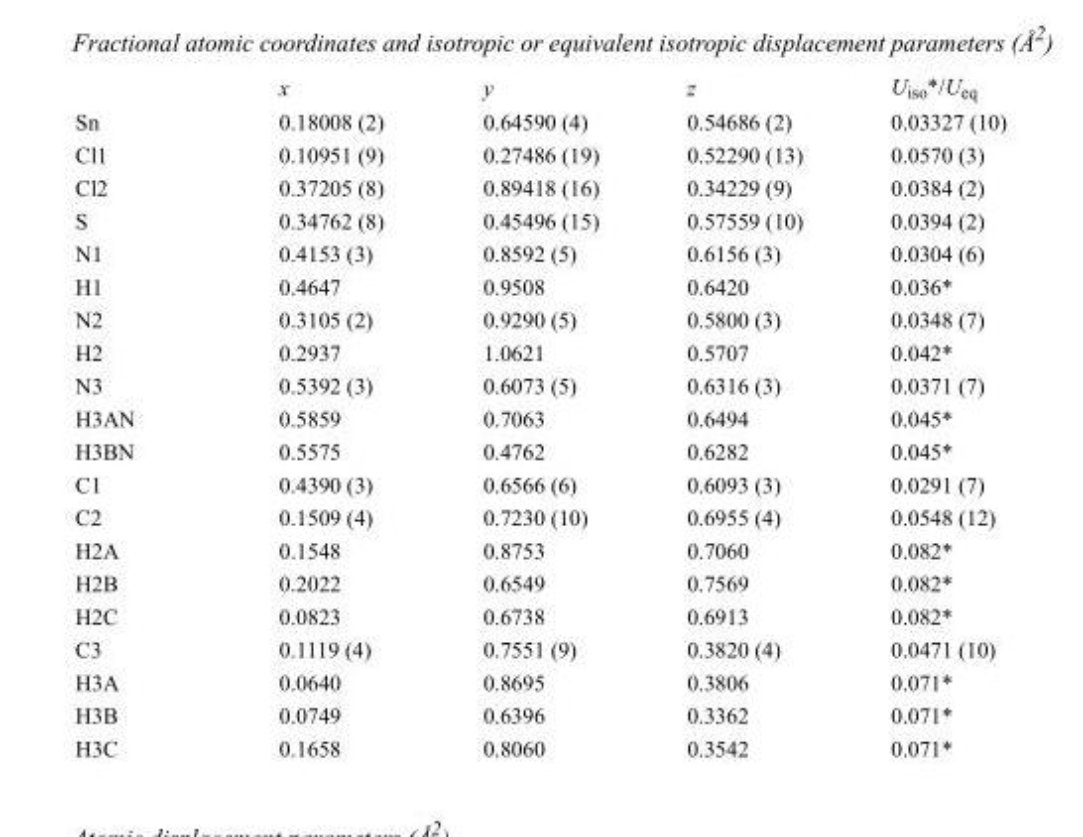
<table><thead><tr><td></td><td>x</td><td>y</td><td>z</td><td>U<sub>iso</sub>*/U<sub>eq</sub></td></tr></thead><tbody><tr><td>Sn</td><td>0.18008 (2)</td><td>0.64590 (4)</td><td>0.54686 (2)</td><td>0.03327 (10)</td></tr><tr><td>Cl1</td><td>0.10951 (9)</td><td>0.27486 (19)</td><td>0.52290 (13)</td><td>0.0570 (3)</td></tr><tr><td>Cl2</td><td>0.37205 (8)</td><td>0.89418 (16)</td><td>0.34229 (9)</td><td>0.0384 (2)</td></tr><tr><td>S</td><td>0.34762 (8)</td><td>0.45496 (15)</td><td>0.57559 (10)</td><td>0.0394 (2)</td></tr><tr><td>N1</td><td>0.4153 (3)</td><td>0.8592 (5)</td><td>0.6156 (3)</td><td>0.0304 (6)</td></tr><tr><td>H1</td><td>0.4647</td><td>0.9508</td><td>0.6420</td><td>0.036*</td></tr><tr><td>N2</td><td>0.3105 (2)</td><td>0.9290 (5)</td><td>0.5800 (3)</td><td>0.0348 (7)</td></tr><tr><td>H2</td><td>0.2937</td><td>1.0621</td><td>0.5707</td><td>0.042*</td></tr><tr><td>N3</td><td>0.5392 (3)</td><td>0.6073 (5)</td><td>0.6316 (3)</td><td>0.0371 (7)</td></tr><tr><td>H3AN</td><td>0.5859</td><td>0.7063</td><td>0.6494</td><td>0.045*</td></tr><tr><td>H3BN</td><td>0.5575</td><td>0.4762</td><td>0.6282</td><td>0.045*</td></tr><tr><td>C1</td><td>0.4390 (3)</td><td>0.6566 (6)</td><td>0.6093 (3)</td><td>0.0291 (7)</td></tr><tr><td>C2</td><td>0.1509 (4)</td><td>0.7230 (10)</td><td>0.6955 (4)</td><td>0.0548 (12)</td></tr><tr><td>H2A</td><td>0.1548</td><td>0.8753</td><td>0.7060</td><td>0.082*</td></tr><tr><td>H2B</td><td>0.2022</td><td>0.6549</td><td>0.7569</td><td>0.082*</td></tr><tr><td>H2C</td><td>0.0823</td><td>0.6738</td><td>0.6913</td><td>0.082*</td></tr><tr><td>C3</td><td>0.1119 (4)</td><td>0.7551 (9)</td><td>0.3820 (4)</td><td>0.0471 (10)</td></tr><tr><td>H3A</td><td>0.0640</td><td>0.8695</td><td>0.3806</td><td>0.071*</td></tr><tr><td>H3B</td><td>0.0749</td><td>0.6396</td><td>0.3362</td><td>0.071*</td></tr><tr><td>H3C</td><td>0.1658</td><td>0.8060</td><td>0.3542</td><td>0.071*</td></tr></tbody></table>